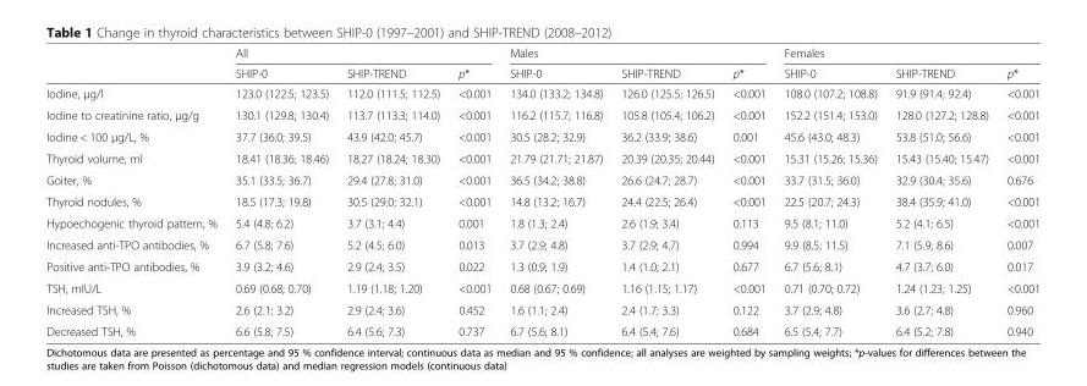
<table><thead><tr><td rowspan="2"></td><td colspan="3">All</td><td colspan="3">Males</td><td colspan="3">Females</td></tr><tr><td>SHIP-0</td><td>SHIP-TREND</td><td>p*</td><td>SHIP-0</td><td>SHIP-TREND</td><td>p*</td><td>SHIP-0</td><td>SHIP-TREND</td><td>p*</td></tr></thead><tbody><tr><td>Iodine, μg/l</td><td>123.0 (122.5; 123.5)</td><td>112.0 (111.5; 112.5)</td><td>&lt;0.001</td><td>134.0 (133.2; 134.8)</td><td>126.0 (125.5; 126.5)</td><td>&lt;0.001</td><td>108.0 (107.2; 108.8)</td><td>91.9 (91.4; 92.4)</td><td>&lt;0.001</td></tr><tr><td>Iodine to creatinine ratio, μg/g</td><td>130.1 (129.8; 130.4)</td><td>113.7 (113.3; 114.0)</td><td>&lt;0.001</td><td>116.2 (115.7; 116.8)</td><td>105.8 (105.4; 106.2)</td><td>&lt;0.001</td><td>152.2 (151.4; 153.0)</td><td>128.0 (127.2; 128.8)</td><td>&lt;0.001</td></tr><tr><td>Iodine &lt; 100 μg/L, %</td><td>37.7 (36.0; 39.5)</td><td>43.9 (42.0; 45.7)</td><td>&lt;0.001</td><td>30.5 (28.2; 32.9)</td><td>36.2 (33.9; 38.6)</td><td>0.001</td><td>45.6 (43.0; 48.3)</td><td>53.8 (51.0; 56.6)</td><td>&lt;0.001</td></tr><tr><td>Thyroid volume, ml</td><td>18.41 (18.36; 18.46)</td><td>18.27 (18.24; 18.30)</td><td>&lt;0.001</td><td>21.79 (21.71; 21.87)</td><td>20.39 (20.35; 20.44)</td><td>&lt;0.001</td><td>15.31 (15.26; 15.36)</td><td>15.43 (15.40; 15.47)</td><td>&lt;0.001</td></tr><tr><td>Goiter, %</td><td>35.1 (33.5; 36.7)</td><td>29.4 (27.8; 31.0)</td><td>&lt;0.001</td><td>36.5 (34.2; 38.8)</td><td>26.6 (24.7; 28.7)</td><td>&lt;0.001</td><td>33.7 (31.5; 36.0)</td><td>32.9 (30.4; 35.6)</td><td>0.676</td></tr><tr><td>Thyroid nodules, %</td><td>18.5 (17.3; 19.8)</td><td>30.5 (29.0; 32.1)</td><td>&lt;0.001</td><td>14.8 (13.2; 16.7)</td><td>24.4 (22.5; 26.4)</td><td>&lt;0.001</td><td>22.5 (20.7; 24.3)</td><td>38.4 (35.9; 41.0)</td><td>&lt;0.001</td></tr><tr><td>Hypoechogenic thyroid pattern, %</td><td>5.4 (4.8; 6.2)</td><td>3.7 (3.1; 4.4)</td><td>0.001</td><td>1.8 (1.3; 2.4)</td><td>2.6 (1.9; 3.4)</td><td>0.113</td><td>9.5 (8.1; 11.0)</td><td>5.2 (4.1; 6.5)</td><td>&lt;0.001</td></tr><tr><td>Increased anti-TPO antibodies, %</td><td>6.7 (5.8; 7.6)</td><td>5.2 (4.5; 6.0)</td><td>0.013</td><td>3.7 (2.9; 4.8)</td><td>3.7 (2.9; 4.7)</td><td>0.994</td><td>9.9 (8.5; 11.5)</td><td>7.1 (5.9; 8.6)</td><td>0.007</td></tr><tr><td>Positive anti-TPO antibodies, %</td><td>3.9 (3.2; 4.6)</td><td>2.9 (2.4; 3.5)</td><td>0.022</td><td>1.3 (0.9; 1.9)</td><td>1.4 (1.0; 2.1)</td><td>0.677</td><td>6.7 (5.6; 8.1)</td><td>4.7 (3.7; 6.0)</td><td>0.017</td></tr><tr><td>TSH, mIU/L</td><td>0.69 (0.68; 0.70)</td><td>1.19 (1.18; 1.20)</td><td>&lt;0.001</td><td>0.68 (0.67; 0.69)</td><td>1.16 (1.15; 1.17)</td><td>&lt;0.001</td><td>0.71 (0.70; 0.72)</td><td>1.24 (1.23; 1.25)</td><td>&lt;0.001</td></tr><tr><td>Increased TSH, %</td><td>2.6 (2.1; 3.2)</td><td>2.9 (2.4; 3.6)</td><td>0.452</td><td>1.6 (1.1; 2.4)</td><td>2.4 (1.7; 3.3)</td><td>0.122</td><td>3.7 (2.9; 4.8)</td><td>3.6 (2.7; 4.8)</td><td>0.960</td></tr><tr><td>Decreased TSH, %</td><td>6.6 (5.8; 7.5)</td><td>6.4 (5.6; 7.3)</td><td>0.737</td><td>6.7 (5.6; 8.1)</td><td>6.4 (5.4; 7.6)</td><td>0.684</td><td>6.5 (5.4; 7.7)</td><td>6.4 (5.2; 7.8)</td><td>0.940</td></tr></tbody></table>